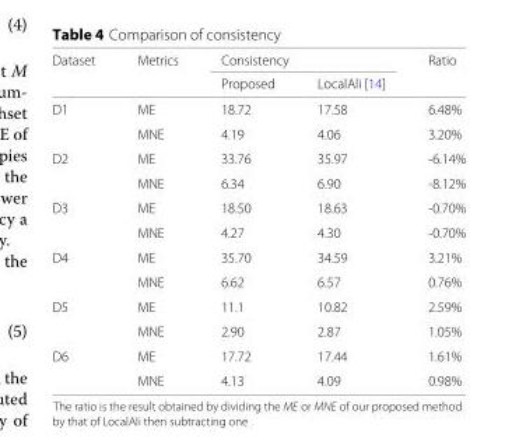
<table><thead><tr><td rowspan="2">Dataset</td><td rowspan="2">Metrics</td><td colspan="2">Consistency</td><td rowspan="2">Ratio</td></tr><tr><td>Proposed</td><td>LocalAli [14]</td></tr></thead><tbody><tr><td rowspan="2">D1</td><td>ME</td><td>18.72</td><td>17.58</td><td>6.48%</td></tr><tr><td>MNE</td><td>4.19</td><td>4.06</td><td>3.20%</td></tr><tr><td rowspan="2">D2</td><td>ME</td><td>33.76</td><td>35.97</td><td>-6.14%</td></tr><tr><td>MNE</td><td>6.34</td><td>6.90</td><td>-8.12%</td></tr><tr><td rowspan="2">D3</td><td>ME</td><td>18.50</td><td>18.63</td><td>-0.70%</td></tr><tr><td>MNE</td><td>4.27</td><td>4.30</td><td>-0.70%</td></tr><tr><td rowspan="2">D4</td><td>ME</td><td>35.70</td><td>34.59</td><td>3.21%</td></tr><tr><td>MNE</td><td>6.62</td><td>6.57</td><td>0.76%</td></tr><tr><td rowspan="2">D5</td><td>ME</td><td>11.1</td><td>10.82</td><td>2.59%</td></tr><tr><td>MNE</td><td>2.90</td><td>2.87</td><td>1.05%</td></tr><tr><td rowspan="2">D6</td><td>ME</td><td>17.72</td><td>17.44</td><td>1.61%</td></tr><tr><td>MNE</td><td>4.13</td><td>4.09</td><td>0.98%</td></tr></tbody></table>